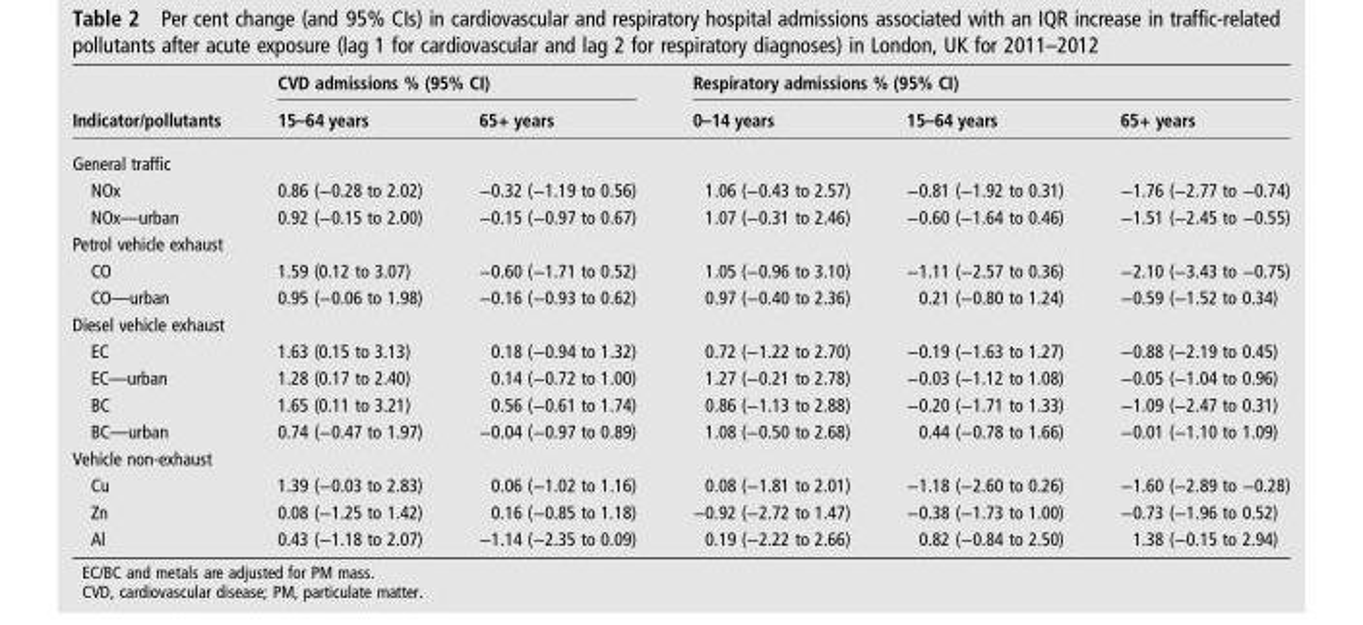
<table><thead><tr><td rowspan="2">Indicator/pollutants</td><td colspan="2">CVD admissions % (95% CI)</td><td colspan="3">Respiratory admissions % (95% CI)</td></tr><tr><td>15–64 years</td><td>65+ years</td><td>0–14 years</td><td>15–64 years</td><td>65+ years</td></tr></thead><tbody><tr><td colspan="6">General traffic</td></tr><tr><td>NOx</td><td>0.86 (−0.28 to 2.02)</td><td>−0.32 (−1.19 to 0.56)</td><td>1.06 (−0.43 to 2.57)</td><td>−0.81 (−1.92 to 0.31)</td><td>−1.76 (−2.77 to −0.74)</td></tr><tr><td>NOx—urban</td><td>0.92 (−0.15 to 2.00)</td><td>−0.15 (−0.97 to 0.67)</td><td>1.07 (−0.31 to 2.46)</td><td>−0.60 (−1.64 to 0.46)</td><td>−1.51 (−2.45 to −0.55)</td></tr><tr><td colspan="6">Petrol vehicle exhaust</td></tr><tr><td>CO</td><td>1.59 (0.12 to 3.07)</td><td>−0.60 (−1.71 to 0.52)</td><td>1.05 (−0.96 to 3.10)</td><td>−1.11 (−2.57 to 0.36)</td><td>−2.10 (−3.43 to −0.75)</td></tr><tr><td>CO—urban</td><td>0.95 (−0.06 to 1.98)</td><td>−0.16 (−0.93 to 0.62)</td><td>0.97 (−0.40 to 2.36)</td><td>0.21 (−0.80 to 1.24)</td><td>−0.59 (−1.52 to 0.34)</td></tr><tr><td colspan="6">Diesel vehicle exhaust</td></tr><tr><td>EC</td><td>1.63 (0.15 to 3.13)</td><td>0.18 (−0.94 to 1.32)</td><td>0.72 (−1.22 to 2.70)</td><td>−0.19 (−1.63 to 1.27)</td><td>−0.88 (−2.19 to 0.45)</td></tr><tr><td>EC—urban</td><td>1.28 (0.17 to 2.40)</td><td>0.14 (−0.72 to 1.00)</td><td>1.27 (−0.21 to 2.78)</td><td>−0.03 (−1.12 to 1.08)</td><td>−0.05 (−1.04 to 0.96)</td></tr><tr><td>BC</td><td>1.65 (0.11 to 3.21)</td><td>0.56 (−0.61 to 1.74)</td><td>0.86 (−1.13 to 2.88)</td><td>−0.20 (−1.71 to 1.33)</td><td>−1.09 (−2.47 to 0.31)</td></tr><tr><td>BC—urban</td><td>0.74 (−0.47 to 1.97)</td><td>−0.04 (−0.97 to 0.89)</td><td>1.08 (−0.50 to 2.68)</td><td>0.44 (−0.78 to 1.66)</td><td>−0.01 (−1.10 to 1.09)</td></tr><tr><td colspan="6">Vehicle non-exhaust</td></tr><tr><td>Cu</td><td>1.39 (−0.03 to 2.83)</td><td>0.06 (−1.02 to 1.16)</td><td>0.08 (−1.81 to 2.01)</td><td>−1.18 (−2.60 to 0.26)</td><td>−1.60 (−2.89 to −0.28)</td></tr><tr><td>Zn</td><td>0.08 (−1.25 to 1.42)</td><td>0.16 (−0.85 to 1.18)</td><td>−0.92 (−2.72 to 1.47)</td><td>−0.38 (−1.73 to 1.00)</td><td>−0.73 (−1.96 to 0.52)</td></tr><tr><td>Al</td><td>0.43 (−1.18 to 2.07)</td><td>−1.14 (−2.35 to 0.09)</td><td>0.19 (−2.22 to 2.66)</td><td>0.82 (−0.84 to 2.50)</td><td>1.38 (−0.15 to 2.94)</td></tr></tbody></table>